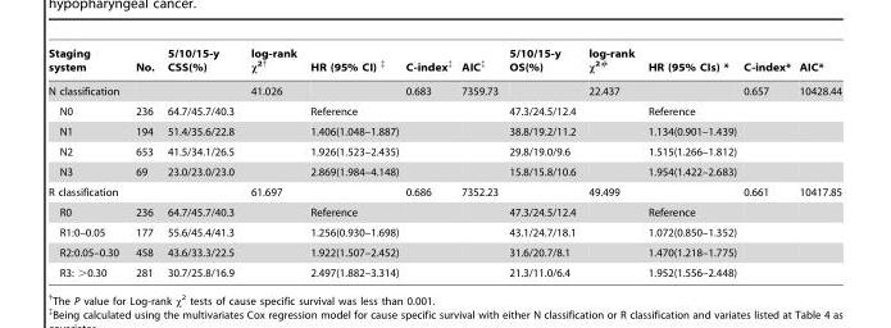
<table><thead><tr><td>Staging system</td><td>No.</td><td>5/10/15-y CSS(%)</td><td>log-rank χ<sup>2</sup>†</td><td>HR (95% CI) ‡</td><td>C-index‡</td><td>AIC‡</td><td>5/10/15-y OS(%)</td><td>log-rank χ<sup>2#</sup></td><td>HR (95% CIs) *</td><td>C-index*</td><td>AIC*</td></tr></thead><tbody><tr><td>N classification</td><td></td><td></td><td>41.026</td><td></td><td>0.683</td><td>7359.73</td><td></td><td>22.437</td><td></td><td>0.657</td><td>10428.44</td></tr><tr><td>N0</td><td>236</td><td>64.7/45.7/40.3</td><td></td><td>Reference</td><td></td><td></td><td>47.3/24.5/12.4</td><td></td><td>Reference</td><td></td><td></td></tr><tr><td>N1</td><td>194</td><td>51.4/35.6/22.8</td><td></td><td>1.406(1.048–1.887)</td><td></td><td></td><td>38.8/19.2/11.2</td><td></td><td>1.134(0.901–1.439)</td><td></td><td></td></tr><tr><td>N2</td><td>653</td><td>41.5/34.1/26.5</td><td></td><td>1.926(1.523–2.435)</td><td></td><td></td><td>29.8/19.0/9.6</td><td></td><td>1.515(1.266–1.812)</td><td></td><td></td></tr><tr><td>N3</td><td>69</td><td>23.0/23.0/23.0</td><td></td><td>2.869(1.984–4.148)</td><td></td><td></td><td>15.8/15.8/10.6</td><td></td><td>1.954(1.422–2.683)</td><td></td><td></td></tr><tr><td>R classification</td><td></td><td></td><td>61.697</td><td></td><td>0.686</td><td>7352.23</td><td></td><td>49.499</td><td></td><td>0.661</td><td>10417.85</td></tr><tr><td>R0</td><td>236</td><td>64.7/45.7/40.3</td><td></td><td>Reference</td><td></td><td></td><td>47.3/24.5/12.4</td><td></td><td>Reference</td><td></td><td></td></tr><tr><td>R1:0–0.05</td><td>177</td><td>55.6/45.4/41.3</td><td></td><td>1.256(0.930–1.698)</td><td></td><td></td><td>43.1/24.7/18.1</td><td></td><td>1.072(0.850–1.352)</td><td></td><td></td></tr><tr><td>R2:0.05–0.30</td><td>458</td><td>43.6/33.3/22.5</td><td></td><td>1.922(1.507–2.452)</td><td></td><td></td><td>31.6/20.7/8.1</td><td></td><td>1.470(1.218–1.775)</td><td></td><td></td></tr><tr><td>R3: &gt;0.30</td><td>281</td><td>30.7/25.8/16.9</td><td></td><td>2.497(1.882–3.314)</td><td></td><td></td><td>21.3/11.0/6.4</td><td></td><td>1.952(1.556–2.448)</td><td></td><td></td></tr></tbody></table>